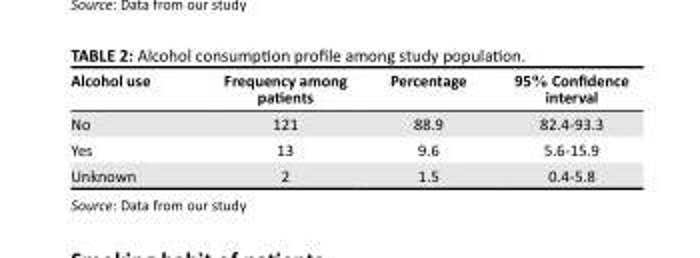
<table><thead><tr><td>Alcohol use</td><td>Frequency among patients</td><td>Percentage</td><td>95% Confidence interval</td></tr></thead><tbody><tr><td>No</td><td>121</td><td>88.9</td><td>82.4-93.3</td></tr><tr><td>Yes</td><td>13</td><td>9.6</td><td>5.6-15.9</td></tr><tr><td>Unknown</td><td>2</td><td>1.5</td><td>0.4-5.8</td></tr></tbody></table>